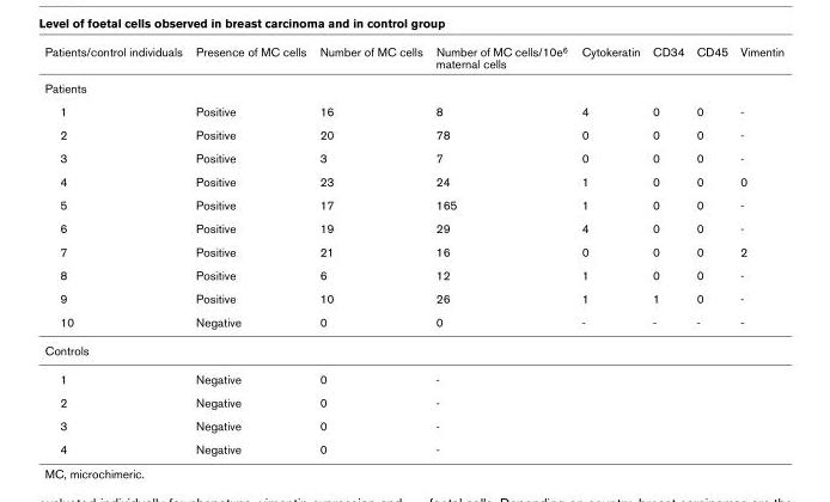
<table><thead><tr><td>Patients/control individuals</td><td>Presence of MC cells</td><td>Number of MC cells</td><td>Number of MC cells/10e<sup>6</sup> maternal cells</td><td>Cytokeratin</td><td>CD34</td><td>CD45</td><td>Vimentin</td></tr></thead><tbody><tr><td colspan="8">Patients</td></tr><tr><td>1</td><td>Positive</td><td>16</td><td>8</td><td>4</td><td>0</td><td>0</td><td>-</td></tr><tr><td>2</td><td>Positive</td><td>20</td><td>78</td><td>0</td><td>0</td><td>0</td><td>-</td></tr><tr><td>3</td><td>Positive</td><td>3</td><td>7</td><td>0</td><td>0</td><td>0</td><td>-</td></tr><tr><td>4</td><td>Positive</td><td>23</td><td>24</td><td>1</td><td>0</td><td>0</td><td>0</td></tr><tr><td>5</td><td>Positive</td><td>17</td><td>165</td><td>1</td><td>0</td><td>0</td><td>-</td></tr><tr><td>6</td><td>Positive</td><td>19</td><td>29</td><td>4</td><td>0</td><td>0</td><td>-</td></tr><tr><td>7</td><td>Positive</td><td>21</td><td>16</td><td>0</td><td>0</td><td>0</td><td>2</td></tr><tr><td>8</td><td>Positive</td><td>6</td><td>12</td><td>1</td><td>0</td><td>0</td><td>-</td></tr><tr><td>9</td><td>Positive</td><td>10</td><td>26</td><td>1</td><td>1</td><td>0</td><td>-</td></tr><tr><td>10</td><td>Negative</td><td>0</td><td>0</td><td>-</td><td>-</td><td>-</td><td>-</td></tr><tr><td colspan="8">Controls</td></tr><tr><td>1</td><td>Negative</td><td>0</td><td>-</td><td></td><td></td><td></td><td></td></tr><tr><td>2</td><td>Negative</td><td>0</td><td>-</td><td></td><td></td><td></td><td></td></tr><tr><td>3</td><td>Negative</td><td>0</td><td>-</td><td></td><td></td><td></td><td></td></tr><tr><td>4</td><td>Negative</td><td>0</td><td>-</td><td></td><td></td><td></td><td></td></tr></tbody></table>